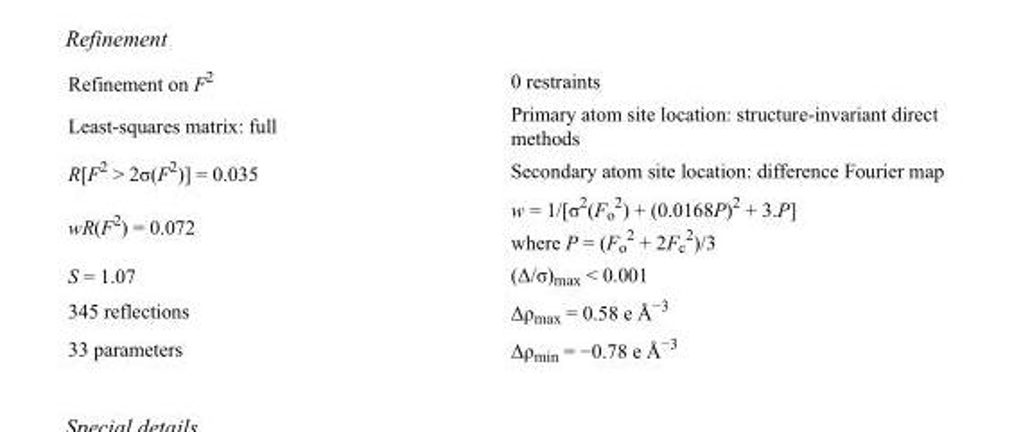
<table><tbody><tr><td>Refinement on F<sup>2</sup></td><td>0 restraints</td></tr><tr><td>Least-squares matrix: full</td><td>Primary atom site location: structure-invariant direct methods</td></tr><tr><td>R[F<sup>2</sup> &gt; 2σ(F<sup>2</sup>)] = 0.035</td><td>Secondary atom site location: difference Fourier map</td></tr><tr><td>wR(F<sup>2</sup>) = 0.072</td><td>w = 1/[σ<sup>2</sup>(F<sub>o</sub> <sup>2</sup>) + (0.0168P)<sup>2</sup> + 3.P] where P = (F<sub>o</sub> <sup>2</sup> + 2F<sub>c</sub> <sup>2</sup>)/3</td></tr><tr><td>S = 1.07</td><td>(Δ/σ)<sub>max</sub> &lt; 0.001</td></tr><tr><td>345 reflections</td><td>Δρ<sub>max</sub> = 0.58 e Å<sup>−3</sup></td></tr><tr><td>33 parameters</td><td>Δρ<sub>min</sub> = −0.78 e Å<sup>−3</sup></td></tr></tbody></table>